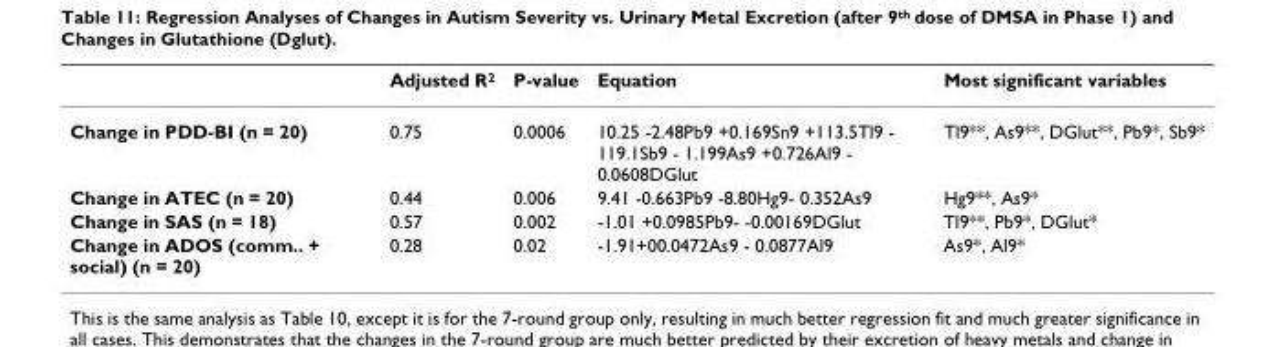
<table><thead><tr><td></td><td>Adjusted R<sup>2</sup></td><td>P-value</td><td>Equation</td><td>Most significant variables</td></tr></thead><tbody><tr><td>Change in PDD-BI (n = 20)</td><td>0.75</td><td>0.0006</td><td>10.25 -2.48Pb9 +0.169Sn9 +113.5Tl9 - 119.1Sb9 - 1.199As9 +0.726Al9 - 0.0608DGlut</td><td>Tl9**, As9**, DGlut**, Pb9*, Sb9*</td></tr><tr><td>Change in ATEC (n = 20)</td><td>0.44</td><td>0.006</td><td>9.41 -0.663Pb9 -8.80Hg9- 0.352As9</td><td>Hg9**, As9*</td></tr><tr><td>Change in SAS (n = 18)</td><td>0.57</td><td>0.002</td><td>-1.01 +0.0985Pb9- -0.00169DGlut</td><td>Tl9**, Pb9*, DGlut*</td></tr><tr><td>Change in ADOS (comm.. + social) (n = 20)</td><td>0.28</td><td>0.02</td><td>-1.91+00.0472As9 - 0.0877Al9</td><td>As9*, Al9*</td></tr></tbody></table>